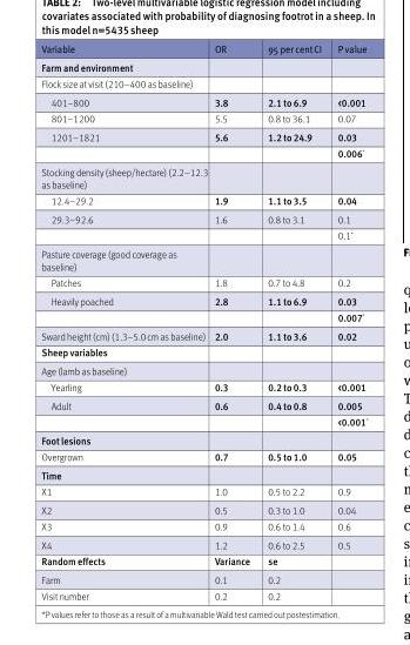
<table><thead><tr><td>Variable</td><td>OR</td><td>95 per cent CI</td><td>P value</td></tr></thead><tbody><tr><td colspan="4">Farm and environment</td></tr><tr><td colspan="4">Flock size at visit (210–400 as baseline)</td></tr><tr><td>401–800</td><td>3.8</td><td>2.1 to 6.9</td><td>&lt;0.001</td></tr><tr><td>801–1200</td><td>5.5</td><td>0.8 to 36.1</td><td>0.07</td></tr><tr><td rowspan="2">1201–1821</td><td>5.6</td><td>1.2 to 24.9</td><td>0.03</td></tr><tr><td></td><td></td><td>0.006*</td></tr><tr><td colspan="4">Stocking density (sheep/hectare) (2.2–12.3 as baseline)</td></tr><tr><td>12.4–29.2</td><td>1.9</td><td>1.1 to 3.5</td><td>0.04</td></tr><tr><td rowspan="2">29.3–92.6</td><td>1.6</td><td>0.8 to 3.1</td><td>0.1</td></tr><tr><td></td><td></td><td>0.1*</td></tr><tr><td colspan="4">Pasture coverage (good coverage as baseline)</td></tr><tr><td>Patches</td><td>1.8</td><td>0.7 to 4.8</td><td>0.2</td></tr><tr><td rowspan="2">Heavily poached</td><td>2.8</td><td>1.1 to 6.9</td><td>0.03</td></tr><tr><td></td><td></td><td>0.007*</td></tr><tr><td>Sward height (cm) (1.3–5.0 cm as baseline)</td><td>2.0</td><td>1.1 to 3.6</td><td>0.02</td></tr><tr><td colspan="4">Sheep variables</td></tr><tr><td colspan="4">Age (lamb as baseline)</td></tr><tr><td>Yearling</td><td>0.3</td><td>0.2 to 0.3</td><td>&lt;0.001</td></tr><tr><td rowspan="2">Adult</td><td>0.6</td><td>0.4 to 0.8</td><td>0.005</td></tr><tr><td></td><td></td><td>&lt;0.001*</td></tr><tr><td colspan="4">Foot lesions</td></tr><tr><td>Overgrown</td><td>0.7</td><td>0.5 to 1.0</td><td>0.05</td></tr><tr><td colspan="4">Time</td></tr><tr><td>X1</td><td>1.0</td><td>0.5 to 2.2</td><td>0.9</td></tr><tr><td>X2</td><td>0.5</td><td>0.3 to 1.0</td><td>0.04</td></tr><tr><td>X3</td><td>0.9</td><td>0.6 to 1.4</td><td>0.6</td></tr><tr><td>X4</td><td>1.2</td><td>0.6 to 2.5</td><td>0.5</td></tr><tr><td>Random effects</td><td>Variance</td><td>se</td><td></td></tr><tr><td>Farm</td><td>0.1</td><td>0.2</td><td></td></tr><tr><td>Visit number</td><td>0.2</td><td>0.2</td><td></td></tr></tbody></table>